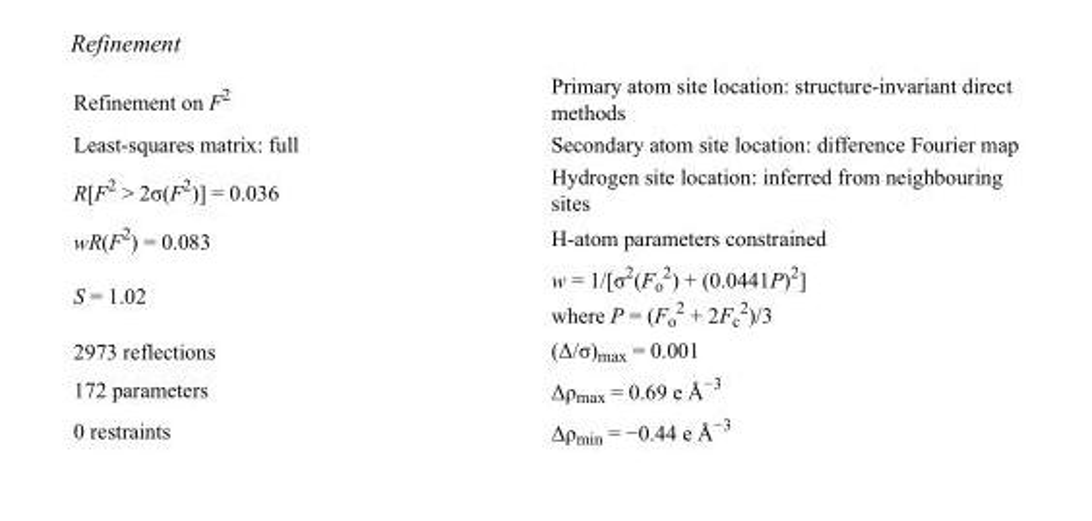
<table><tbody><tr><td>Refinement on F<sup>2</sup></td><td>Primary atom site location: structure-invariant direct methods</td></tr><tr><td>Least-squares matrix: full</td><td>Secondary atom site location: difference Fourier map</td></tr><tr><td>R[F<sup>2</sup> &gt; 2σ(F<sup>2</sup>)] = 0.036</td><td>Hydrogen site location: inferred from neighbouring sites</td></tr><tr><td>wR(F<sup>2</sup>) = 0.083</td><td>H-atom parameters constrained</td></tr><tr><td>S = 1.02</td><td>w = 1/[σ<sup>2</sup>(F<sub>o</sub> <sup>2</sup>) + (0.0441P)<sup>2</sup>] where P = (F<sub>o</sub> <sup>2</sup> + 2F<sub>c</sub> <sup>2</sup>)/3</td></tr><tr><td>2973 reflections</td><td>(Δ/σ)<sub>max</sub> = 0.001</td></tr><tr><td>172 parameters</td><td>Δρ<sub>max</sub> = 0.69 e Å<sup>−3</sup></td></tr><tr><td>0 restraints</td><td>Δρ<sub>min</sub> = −0.44 e Å<sup>−3</sup></td></tr></tbody></table>